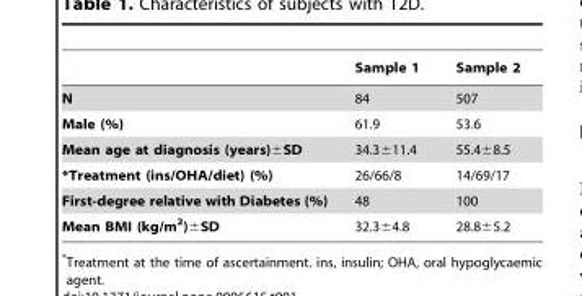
<table><thead><tr><td></td><td>Sample 1</td><td>Sample 2</td></tr></thead><tbody><tr><td>N</td><td>84</td><td>507</td></tr><tr><td>Male (%)</td><td>61.9</td><td>53.6</td></tr><tr><td>Mean age at diagnosis (years)±SD</td><td>34.3±11.4</td><td>55.4±8.5</td></tr><tr><td>*Treatment (ins/OHA/diet) (%)</td><td>26/66/8</td><td>14/69/17</td></tr><tr><td>First-degree relative with Diabetes (%)</td><td>48</td><td>100</td></tr><tr><td>Mean BMI (kg/m<sup>2</sup>)±SD</td><td>32.3±4.8</td><td>28.8±5.2</td></tr></tbody></table>